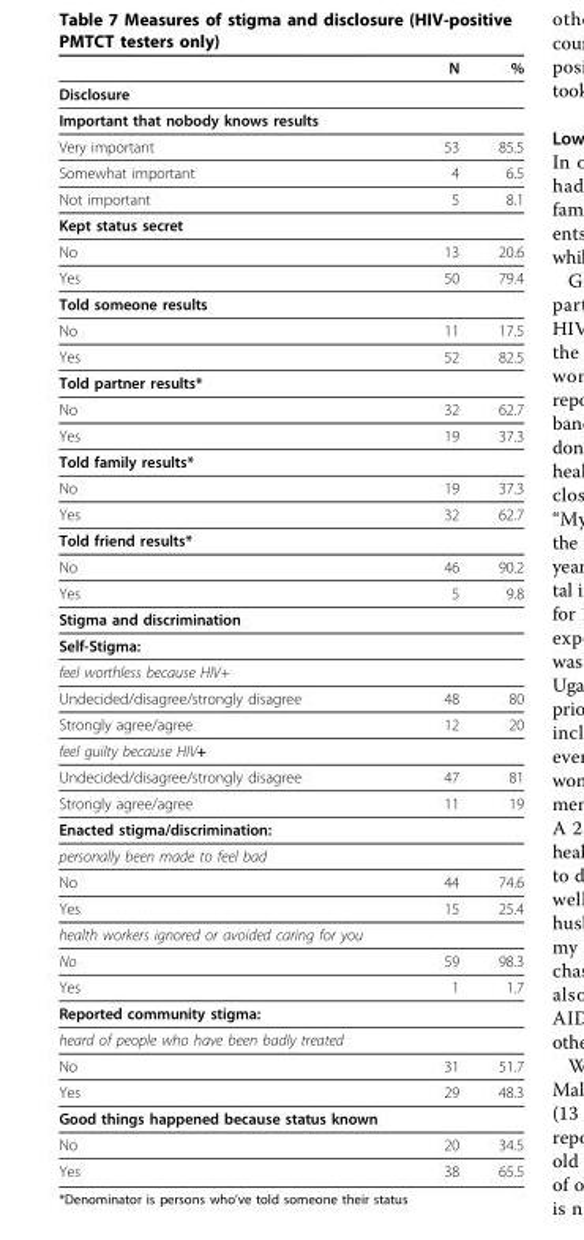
<table><thead><tr><td></td><td>N</td><td>%</td></tr></thead><tbody><tr><td colspan="3">Disclosure</td></tr><tr><td colspan="3">Important that nobody knows results</td></tr><tr><td>Very important</td><td>53</td><td>85.5</td></tr><tr><td>Somewhat important</td><td>4</td><td>6.5</td></tr><tr><td>Not important</td><td>5</td><td>8.1</td></tr><tr><td colspan="3">Kept status secret</td></tr><tr><td>No</td><td>13</td><td>20.6</td></tr><tr><td>Yes</td><td>50</td><td>79.4</td></tr><tr><td colspan="3">Told someone results</td></tr><tr><td>No</td><td>11</td><td>17.5</td></tr><tr><td>Yes</td><td>52</td><td>82.5</td></tr><tr><td colspan="3">Told partner results*</td></tr><tr><td>No</td><td>32</td><td>62.7</td></tr><tr><td>Yes</td><td>19</td><td>37.3</td></tr><tr><td colspan="3">Told family results*</td></tr><tr><td>No</td><td>19</td><td>37.3</td></tr><tr><td>Yes</td><td>32</td><td>62.7</td></tr><tr><td colspan="3">Told friend results*</td></tr><tr><td>No</td><td>46</td><td>90.2</td></tr><tr><td>Yes</td><td>5</td><td>9.8</td></tr><tr><td colspan="3">Stigma and discrimination</td></tr><tr><td colspan="3">Self-Stigma:</td></tr><tr><td colspan="3">feel worthless because HIV+</td></tr><tr><td>Undecided/disagree/strongly disagree</td><td>48</td><td>80</td></tr><tr><td>Strongly agree/agree</td><td>12</td><td>20</td></tr><tr><td colspan="3">feel guilty because HIV+</td></tr><tr><td>Undecided/disagree/strongly disagree</td><td>47</td><td>81</td></tr><tr><td>Strongly agree/agree</td><td>11</td><td>19</td></tr><tr><td colspan="3">Enacted stigma/discrimination:</td></tr><tr><td colspan="3">personally been made to feel bad</td></tr><tr><td>No</td><td>44</td><td>74.6</td></tr><tr><td>Yes</td><td>15</td><td>25.4</td></tr><tr><td colspan="3">health workers ignored or avoided caring for you</td></tr><tr><td>No</td><td>59</td><td>98.3</td></tr><tr><td>Yes</td><td>1</td><td>1.7</td></tr><tr><td colspan="3">Reported community stigma:</td></tr><tr><td colspan="3">heard of people who have been badly treated</td></tr><tr><td>No</td><td>31</td><td>51.7</td></tr><tr><td>Yes</td><td>29</td><td>48.3</td></tr><tr><td colspan="3">Good things happened because status known</td></tr><tr><td>No</td><td>20</td><td>34.5</td></tr><tr><td>Yes</td><td>38</td><td>65.5</td></tr></tbody></table>